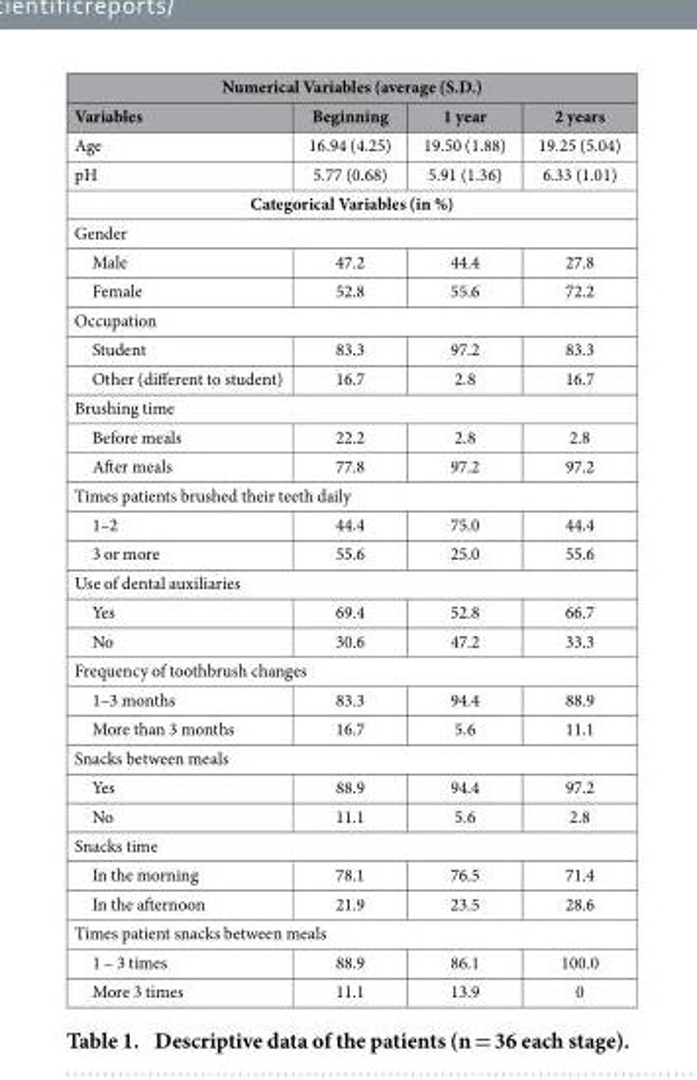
<table><thead><tr><td colspan="4">Numerical Variables (average (S.D.)</td></tr><tr><td>Variables</td><td>Beginning</td><td>1 year</td><td>2 years</td></tr></thead><tbody><tr><td>Age</td><td>16.94 (4.25)</td><td>19.50 (1.88)</td><td>19.25 (5.04)</td></tr><tr><td>pH</td><td>5.77 (0.68)</td><td>5.91 (1.36)</td><td>6.33 (1.01)</td></tr><tr><td colspan="4">Categorical Variables (in %)</td></tr><tr><td colspan="4">Gender</td></tr><tr><td>Male</td><td>47.2</td><td>44.4</td><td>27.8</td></tr><tr><td>Female</td><td>52.8</td><td>55.6</td><td>72.2</td></tr><tr><td colspan="4">Occupation</td></tr><tr><td>Student</td><td>83.3</td><td>97.2</td><td>83.3</td></tr><tr><td>Other (different to student)</td><td>16.7</td><td>2.8</td><td>16.7</td></tr><tr><td colspan="4">Brushing time</td></tr><tr><td>Before meals</td><td>22.2</td><td>2.8</td><td>2.8</td></tr><tr><td>After meals</td><td>77.8</td><td>97.2</td><td>97.2</td></tr><tr><td colspan="4">Times patients brushed their teeth daily</td></tr><tr><td>1–2</td><td>44.4</td><td>75.0</td><td>44.4</td></tr><tr><td>3 or more</td><td>55.6</td><td>25.0</td><td>55.6</td></tr><tr><td colspan="4">Use of dental auxiliaries</td></tr><tr><td>Yes</td><td>69.4</td><td>52.8</td><td>66.7</td></tr><tr><td>No</td><td>30.6</td><td>47.2</td><td>33.3</td></tr><tr><td colspan="4">Frequency of toothbrush changes</td></tr><tr><td>1–3 months</td><td>83.3</td><td>94.4</td><td>88.9</td></tr><tr><td>More than 3 months</td><td>16.7</td><td>5.6</td><td>11.1</td></tr><tr><td colspan="4">Snacks between meals</td></tr><tr><td>Yes</td><td>88.9</td><td>94.4</td><td>97.2</td></tr><tr><td>No</td><td>11.1</td><td>5.6</td><td>2.8</td></tr><tr><td colspan="4">Snacks time</td></tr><tr><td>In the morning</td><td>78.1</td><td>76.5</td><td>71.4</td></tr><tr><td>In the afternoon</td><td>21.9</td><td>23.5</td><td>28.6</td></tr><tr><td colspan="4">Times patient snacks between meals</td></tr><tr><td>1 – 3 times</td><td>88.9</td><td>86.1</td><td>100.0</td></tr><tr><td>More 3 times</td><td>11.1</td><td>13.9</td><td>0</td></tr></tbody></table>